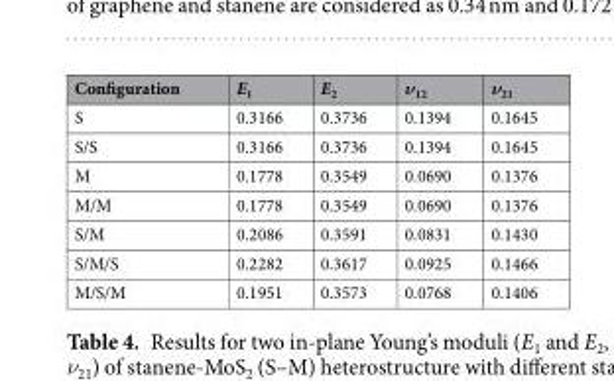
<table><thead><tr><td>Configuration</td><td>E<sub>1</sub></td><td>E<sub>2</sub></td><td>ν<sub>12</sub></td><td>ν<sub>21</sub></td></tr></thead><tbody><tr><td>S</td><td>0.3166</td><td>0.3736</td><td>0.1394</td><td>0.1645</td></tr><tr><td>S/S</td><td>0.3166</td><td>0.3736</td><td>0.1394</td><td>0.1645</td></tr><tr><td>M</td><td>0.1778</td><td>0.3549</td><td>0.0690</td><td>0.1376</td></tr><tr><td>M/M</td><td>0.1778</td><td>0.3549</td><td>0.0690</td><td>0.1376</td></tr><tr><td>S/M</td><td>0.2086</td><td>0.3591</td><td>0.0831</td><td>0.1430</td></tr><tr><td>S/M/S</td><td>0.2282</td><td>0.3617</td><td>0.0925</td><td>0.1466</td></tr><tr><td>M/S/M</td><td>0.1951</td><td>0.3573</td><td>0.0768</td><td>0.1406</td></tr></tbody></table>